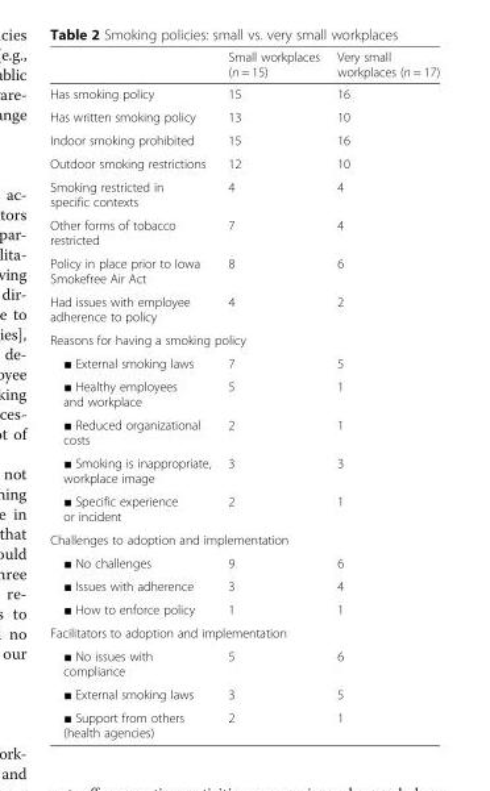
<table><thead><tr><td></td><td>Small workplaces (n = 15)</td><td>Very small workplaces (n = 17)</td></tr></thead><tbody><tr><td>Has smoking policy</td><td>15</td><td>16</td></tr><tr><td>Has written smoking policy</td><td>13</td><td>10</td></tr><tr><td>Indoor smoking prohibited</td><td>15</td><td>16</td></tr><tr><td>Outdoor smoking restrictions</td><td>12</td><td>10</td></tr><tr><td>Smoking restricted in specific contexts</td><td>4</td><td>4</td></tr><tr><td>Other forms of tobacco restricted</td><td>7</td><td>4</td></tr><tr><td>Policy in place prior to Iowa Smokefree Air Act</td><td>8</td><td>6</td></tr><tr><td>Had issues with employee adherence to policy</td><td>4</td><td>2</td></tr><tr><td colspan="3">Reasons for having a smoking policy</td></tr><tr><td>■ External smoking laws</td><td>7</td><td>5</td></tr><tr><td>■ Healthy employees and workplace</td><td>5</td><td>1</td></tr><tr><td>■ Reduced organizational costs</td><td>2</td><td>1</td></tr><tr><td>■ Smoking is inappropriate, workplace image</td><td>3</td><td>3</td></tr><tr><td>■ Specific experience or incident</td><td>2</td><td>1</td></tr><tr><td colspan="3">Challenges to adoption and implementation</td></tr><tr><td>■ No challenges</td><td>9</td><td>6</td></tr><tr><td>■ Issues with adherence</td><td>3</td><td>4</td></tr><tr><td>■ How to enforce policy</td><td>1</td><td>1</td></tr><tr><td colspan="3">Facilitators to adoption and implementation</td></tr><tr><td>■ No issues with compliance</td><td>5</td><td>6</td></tr><tr><td>■ External smoking laws</td><td>3</td><td>5</td></tr><tr><td>■ Support from others (health agencies)</td><td>2</td><td>1</td></tr></tbody></table>